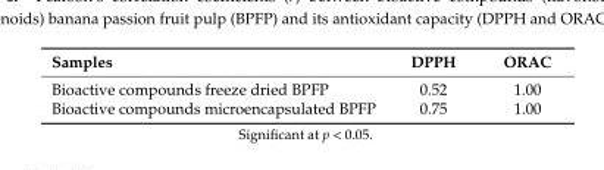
<table><thead><tr><td>Samples</td><td>DPPH</td><td>ORAC</td></tr></thead><tbody><tr><td>Bioactive compounds freeze dried BPFP</td><td>0.52</td><td>1.00</td></tr><tr><td>Bioactive compounds microencapsulated BPFP</td><td>0.75</td><td>1.00</td></tr></tbody></table>